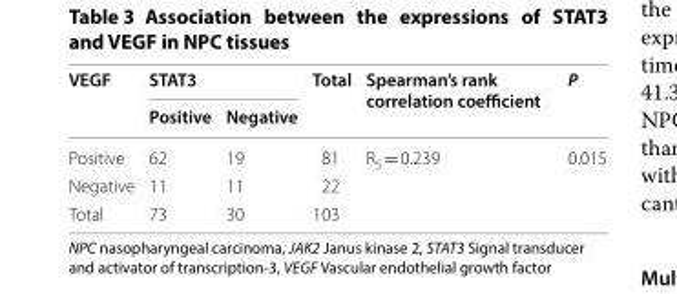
<table><thead><tr><td rowspan="2">VEGF</td><td colspan="2">STAT3</td><td rowspan="2">Total</td><td rowspan="2">Spearman’s rank correlation coefficient</td><td rowspan="2">P</td></tr><tr><td>Positive</td><td>Negative</td></tr></thead><tbody><tr><td>Positive</td><td>62</td><td>19</td><td>81</td><td rowspan="3">R<sub>S</sub> = 0.239</td><td rowspan="3">0.015</td></tr><tr><td>Negative</td><td>11</td><td>11</td><td>22</td></tr><tr><td>Total</td><td>73</td><td>30</td><td>103</td></tr></tbody></table>